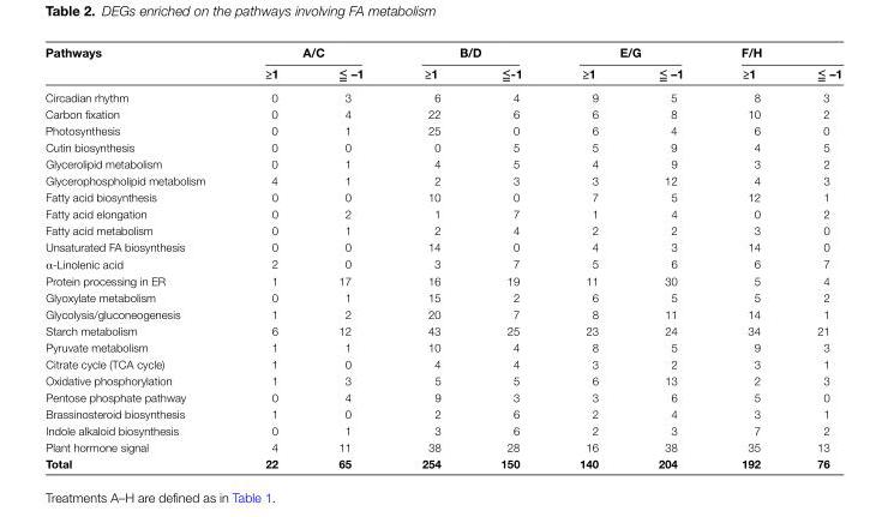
<table><thead><tr><td rowspan="2">Pathways</td><td colspan="2">A/C</td><td colspan="2">B/D</td><td colspan="2">E/G</td><td colspan="2">F/H</td></tr><tr><td>≥1</td><td>≦ –1</td><td>≥1</td><td>≦-1</td><td>≥1</td><td>≦ –1</td><td>≥1</td><td>≦ –1</td></tr></thead><tbody><tr><td>Circadian rhythm</td><td>0</td><td>3</td><td>6</td><td>4</td><td>9</td><td>5</td><td>8</td><td>3</td></tr><tr><td>Carbon fixation</td><td>0</td><td>4</td><td>22</td><td>6</td><td>6</td><td>8</td><td>10</td><td>2</td></tr><tr><td>Photosynthesis</td><td>0</td><td>1</td><td>25</td><td>0</td><td>6</td><td>4</td><td>6</td><td>0</td></tr><tr><td>Cutin biosynthesis</td><td>0</td><td>0</td><td>0</td><td>5</td><td>5</td><td>9</td><td>4</td><td>5</td></tr><tr><td>Glycerolipid metabolism</td><td>0</td><td>1</td><td>4</td><td>5</td><td>4</td><td>9</td><td>3</td><td>2</td></tr><tr><td>Glycerophospholipid metabolism</td><td>4</td><td>1</td><td>2</td><td>3</td><td>3</td><td>12</td><td>4</td><td>3</td></tr><tr><td>Fatty acid biosynthesis</td><td>0</td><td>0</td><td>10</td><td>0</td><td>7</td><td>5</td><td>12</td><td>1</td></tr><tr><td>Fatty acid elongation</td><td>0</td><td>2</td><td>1</td><td>7</td><td>1</td><td>4</td><td>0</td><td>2</td></tr><tr><td>Fatty acid metabolism</td><td>0</td><td>1</td><td>2</td><td>4</td><td>2</td><td>2</td><td>3</td><td>0</td></tr><tr><td>Unsaturated FA biosynthesis</td><td>0</td><td>0</td><td>14</td><td>0</td><td>4</td><td>3</td><td>14</td><td>0</td></tr><tr><td>α-Linolenic acid</td><td>2</td><td>0</td><td>3</td><td>7</td><td>5</td><td>6</td><td>6</td><td>7</td></tr><tr><td>Protein processing in ER</td><td>1</td><td>17</td><td>16</td><td>19</td><td>11</td><td>30</td><td>5</td><td>4</td></tr><tr><td>Glyoxylate metabolism</td><td>0</td><td>1</td><td>15</td><td>2</td><td>6</td><td>5</td><td>5</td><td>2</td></tr><tr><td>Glycolysis/gluconeogenesis</td><td>1</td><td>2</td><td>20</td><td>7</td><td>8</td><td>11</td><td>14</td><td>1</td></tr><tr><td>Starch metabolism</td><td>6</td><td>12</td><td>43</td><td>25</td><td>23</td><td>24</td><td>34</td><td>21</td></tr><tr><td>Pyruvate metabolism</td><td>1</td><td>1</td><td>10</td><td>4</td><td>8</td><td>5</td><td>9</td><td>3</td></tr><tr><td>Citrate cycle (TCA cycle)</td><td>1</td><td>0</td><td>4</td><td>4</td><td>3</td><td>2</td><td>3</td><td>1</td></tr><tr><td>Oxidative phosphorylation</td><td>1</td><td>3</td><td>5</td><td>5</td><td>6</td><td>13</td><td>2</td><td>3</td></tr><tr><td>Pentose phosphate pathway</td><td>0</td><td>4</td><td>9</td><td>3</td><td>3</td><td>6</td><td>5</td><td>0</td></tr><tr><td>Brassinosteroid biosynthesis</td><td>1</td><td>0</td><td>2</td><td>6</td><td>2</td><td>4</td><td>3</td><td>1</td></tr><tr><td>Indole alkaloid biosynthesis</td><td>0</td><td>1</td><td>3</td><td>6</td><td>2</td><td>3</td><td>7</td><td>2</td></tr><tr><td>Plant hormone signal</td><td>4</td><td>11</td><td>38</td><td>28</td><td>16</td><td>38</td><td>35</td><td>13</td></tr><tr><td>Total</td><td>22</td><td>65</td><td>254</td><td>150</td><td>140</td><td>204</td><td>192</td><td>76</td></tr></tbody></table>